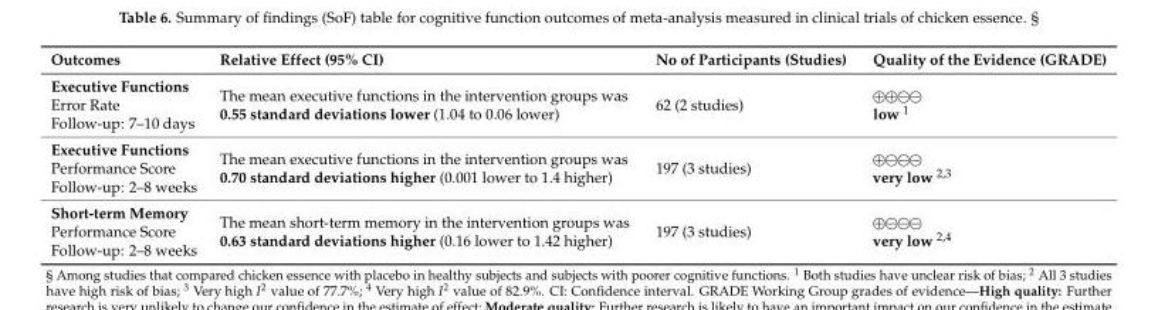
<table><thead><tr><td>Outcomes</td><td>Relative Effect (95% CI)</td><td>No of Participants (Studies)</td><td>Quality of the Evidence (GRADE)</td></tr></thead><tbody><tr><td>Executive Functions Error Rate Follow-up: 7–10 days</td><td>The mean executive functions in the intervention groups was 0.55 standard deviations lower (1.04 to 0.06 lower)</td><td>62 (2 studies)</td><td>‘‘aa low 1</td></tr><tr><td>Executive Functions Performance Score Follow-up: 2–8 weeks</td><td>The mean executive functions in the intervention groups was 0.70 standard deviations higher (0.001 lower to 1.4 higher)</td><td>197 (3 studies)</td><td>‘aaa very low 2,3</td></tr><tr><td>Short-term Memory Performance Score Follow-up: 2–8 weeks</td><td>The mean short-term memory in the intervention groups was 0.63 standard deviations higher (0.16 lower to 1.42 higher)</td><td>197 (3 studies)</td><td>‘aaa very low 2,4</td></tr></tbody></table>